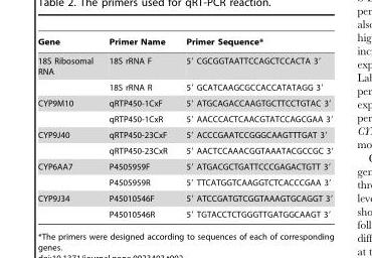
<table><thead><tr><td>Gene</td><td>Primer Name</td><td>Primer Sequence*</td></tr></thead><tbody><tr><td rowspan="2">18S Ribosomal RNA</td><td>18S rRNA F</td><td>5′ CGCGGTAATTCCAGCTCCACTA 3′</td></tr><tr><td>18S rRNA R</td><td>5′ GCATCAAGCGCCACCATATAGG 3′</td></tr><tr><td rowspan="2">CYP9M10</td><td>qRTP450-1CxF</td><td>5′ ATGCAGACCAAGTGCTTCCTGTAC 3′</td></tr><tr><td>qRTP450-1CxR</td><td>5′ AACCCACTCAACGTATCCAGCGAA 3′</td></tr><tr><td rowspan="2">CYP9J40</td><td>qRTP450-23CxF</td><td>5′ ACCCGAATCCGGGCAAGTTTGAT 3′</td></tr><tr><td>qRTP450-23CxR</td><td>5′ AACTCCAAACGGTAAATACGCCGC 3′</td></tr><tr><td rowspan="2">CYP6AA7</td><td>P4505959F</td><td>5′ ATGACGCTGATTCCCGAGACTGTT 3′</td></tr><tr><td>P4505959R</td><td>5′ TTCATGGTCAAGGTCTCACCCGAA 3′</td></tr><tr><td rowspan="2">CYP9J34</td><td>P45010546F</td><td>5′ ATCCGATGTCGGTAAAGTGCAGGT 3′</td></tr><tr><td>P45010546R</td><td>5′ TGTACCTCTGGGTTGATGGCAAGT 3′</td></tr></tbody></table>